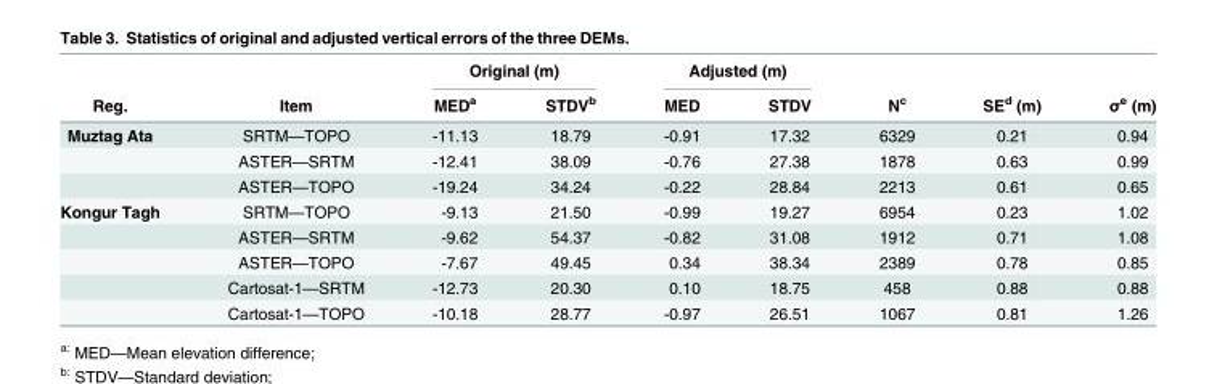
<table><thead><tr><td rowspan="2">Reg.</td><td rowspan="2">Item</td><td colspan="2">Original (m)</td><td colspan="2">Adjusted (m)</td><td rowspan="2">N<sup>c</sup></td><td rowspan="2">SE<sup>d</sup> (m)</td><td rowspan="2">σ<sup>e</sup> (m)</td></tr><tr><td>MED<sup>a</sup></td><td>STDV<sup>b</sup></td><td>MED</td><td>STDV</td></tr></thead><tbody><tr><td rowspan="3">Muztag Ata</td><td>SRTM—TOPO</td><td>-11.13</td><td>18.79</td><td>-0.91</td><td>17.32</td><td>6329</td><td>0.21</td><td>0.94</td></tr><tr><td>ASTER—SRTM</td><td>-12.41</td><td>38.09</td><td>-0.76</td><td>27.38</td><td>1878</td><td>0.63</td><td>0.99</td></tr><tr><td>ASTER—TOPO</td><td>-19.24</td><td>34.24</td><td>-0.22</td><td>28.84</td><td>2213</td><td>0.61</td><td>0.65</td></tr><tr><td rowspan="5">Kongur Tagh</td><td>SRTM—TOPO</td><td>-9.13</td><td>21.50</td><td>-0.99</td><td>19.27</td><td>6954</td><td>0.23</td><td>1.02</td></tr><tr><td>ASTER—SRTM</td><td>-9.62</td><td>54.37</td><td>-0.82</td><td>31.08</td><td>1912</td><td>0.71</td><td>1.08</td></tr><tr><td>ASTER—TOPO</td><td>-7.67</td><td>49.45</td><td>0.34</td><td>38.34</td><td>2389</td><td>0.78</td><td>0.85</td></tr><tr><td>Cartosat-1—SRTM</td><td>-12.73</td><td>20.30</td><td>0.10</td><td>18.75</td><td>458</td><td>0.88</td><td>0.88</td></tr><tr><td>Cartosat-1—TOPO</td><td>-10.18</td><td>28.77</td><td>-0.97</td><td>26.51</td><td>1067</td><td>0.81</td><td>1.26</td></tr></tbody></table>